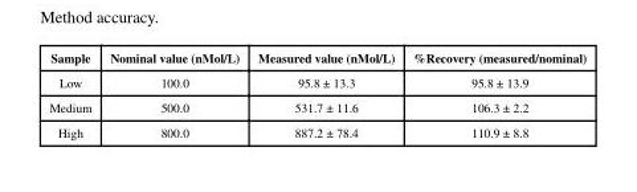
<table><thead><tr><td>Sample</td><td>Nominal value (nMol/L)</td><td>Measured value (nMol/L)</td><td>%Recovery (measured/nominal)</td></tr></thead><tbody><tr><td>Low</td><td>100.0</td><td>95.8 ± 13.3</td><td>95.8 ± 13.9</td></tr><tr><td>Medium</td><td>500.0</td><td>531.7 ± 11.6</td><td>106.3 ± 2.2</td></tr><tr><td>High</td><td>800.0</td><td>887.2 ± 78.4</td><td>110.9 ± 8.8</td></tr></tbody></table>